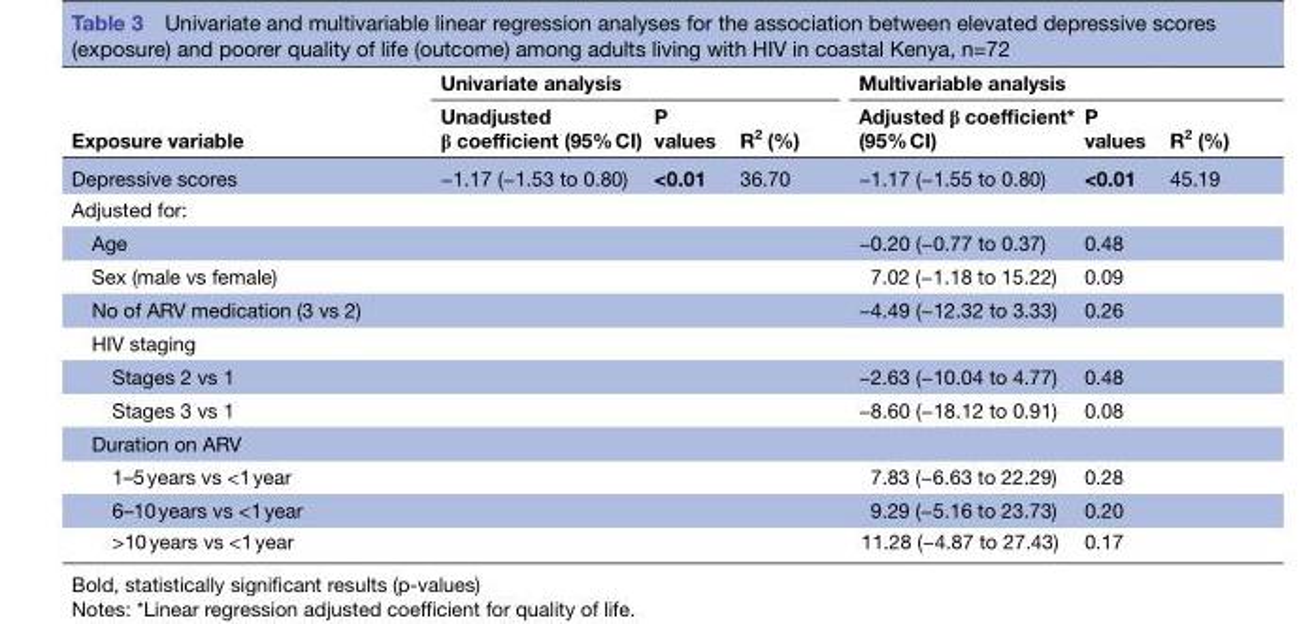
<table><thead><tr><td rowspan="2">Exposure variable</td><td colspan="3">Univariate analysis</td><td colspan="3">Multivariable analysis</td></tr><tr><td>Unadjusted β coefficient (95% CI)</td><td>P values</td><td>R<sup>2</sup> (%)</td><td>Adjusted β coefficient* (95% CI)</td><td>P values</td><td>R<sup>2</sup> (%)</td></tr></thead><tbody><tr><td>Depressive scores</td><td>−1.17 (−1.53 to 0.80)</td><td>&lt;0.01</td><td>36.70</td><td>−1.17 (−1.55 to 0.80)</td><td>&lt;0.01</td><td>45.19</td></tr><tr><td colspan="7">Adjusted for:</td></tr><tr><td>Age</td><td></td><td></td><td></td><td>−0.20 (−0.77 to 0.37)</td><td>0.48</td><td></td></tr><tr><td>Sex (male vs female)</td><td></td><td></td><td></td><td>7.02 (−1.18 to 15.22)</td><td>0.09</td><td></td></tr><tr><td>No of ARV medication (3 vs 2)</td><td></td><td></td><td></td><td>−4.49 (−12.32 to 3.33)</td><td>0.26</td><td></td></tr><tr><td colspan="7">HIV staging</td></tr><tr><td>Stages 2 vs 1</td><td></td><td></td><td></td><td>−2.63 (−10.04 to 4.77)</td><td>0.48</td><td></td></tr><tr><td>Stages 3 vs 1</td><td></td><td></td><td></td><td>−8.60 (−18.12 to 0.91)</td><td>0.08</td><td></td></tr><tr><td colspan="7">Duration on ARV</td></tr><tr><td>1–5 years vs &lt;1 year</td><td></td><td></td><td></td><td>7.83 (−6.63 to 22.29)</td><td>0.28</td><td></td></tr><tr><td>6–10 years vs &lt;1 year</td><td></td><td></td><td></td><td>9.29 (−5.16 to 23.73)</td><td>0.20</td><td></td></tr><tr><td>&gt;10 years vs &lt;1 year</td><td></td><td></td><td></td><td>11.28 (−4.87 to 27.43)</td><td>0.17</td><td></td></tr></tbody></table>